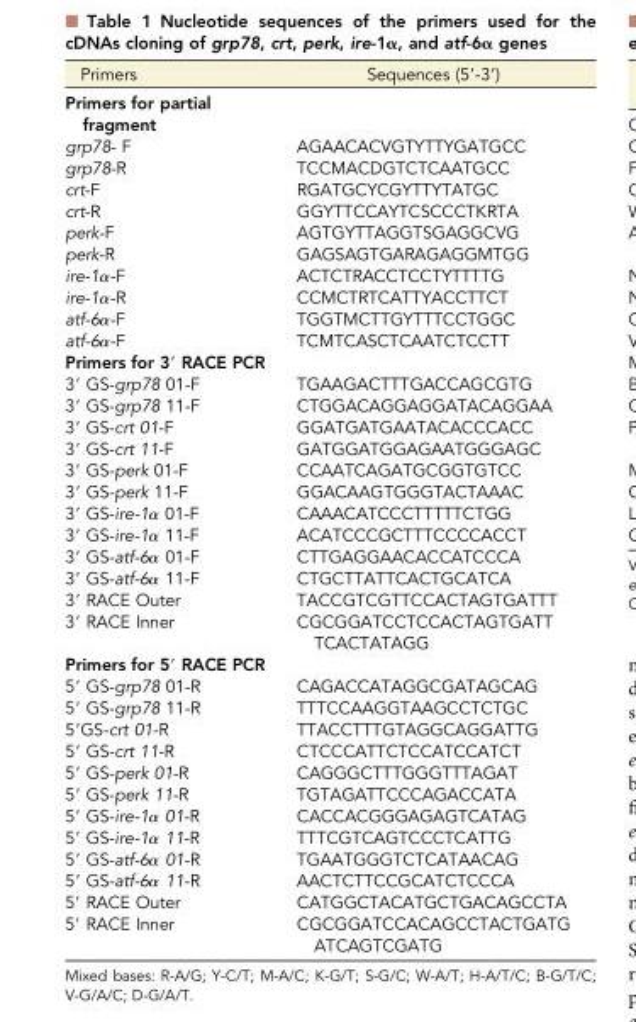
<table><thead><tr><td>Primers</td><td>Sequences (5′-3′)</td></tr></thead><tbody><tr><td colspan="2">Primers for partial fragment</td></tr><tr><td>grp78- F</td><td>AGAACACVGTYTTYGATGCC</td></tr><tr><td>grp78-R</td><td>TCCMACDGTCTCAATGCC</td></tr><tr><td>crt-F</td><td>RGATGCYCGYTTYTATGC</td></tr><tr><td>crt-R</td><td>GGYTTCCAYTCSCCCTKRTA</td></tr><tr><td>perk-F</td><td>AGTGYTTAGGTSGAGGCVG</td></tr><tr><td>perk-R</td><td>GAGSAGTGARAGAGGMTGG</td></tr><tr><td>ire-1α-F</td><td>ACTCTRACCTCCTYTTTTG</td></tr><tr><td>ire-1α-R</td><td>CCMCTRTCATTYACCTTCT</td></tr><tr><td>atf-6α-F</td><td>TGGTMCTTGYTTTCCTGGC</td></tr><tr><td>atf-6α-F</td><td>TCMTCASCTCAATCTCCTT</td></tr><tr><td colspan="2">Primers for 3′ RACE PCR</td></tr><tr><td>3′ GS-grp78 01-F</td><td>TGAAGACTTTGACCAGCGTG</td></tr><tr><td>3′ GS-grp78 11-F</td><td>CTGGACAGGAGGATACAGGAA</td></tr><tr><td>3′ GS-crt 01-F</td><td>GGATGATGAATACACCCACC</td></tr><tr><td>3′ GS-crt 11-F</td><td>GATGGATGGAGAATGGGAGC</td></tr><tr><td>3′ GS-perk 01-F</td><td>CCAATCAGATGCGGTGTCC</td></tr><tr><td>3′ GS-perk 11-F</td><td>GGACAAGTGGGTACTAAAC</td></tr><tr><td>3′ GS-ire-1α 01-F</td><td>CAAACATCCCTTTTTCTGG</td></tr><tr><td>3′ GS-ire-1α 11-F</td><td>ACATCCCGCTTTCCCCACCT</td></tr><tr><td>3′ GS-atf-6α 01-F</td><td>CTTGAGGAACACCATCCCA</td></tr><tr><td>3′ GS-atf-6α 11-F</td><td>CTGCTTATTCACTGCATCA</td></tr><tr><td>3′ RACE Outer</td><td>TACCGTCGTTCCACTAGTGATTT</td></tr><tr><td>3′ RACE Inner</td><td>CGCGGATCCTCCACTAGTGATT TCACTATAGG</td></tr><tr><td colspan="2">Primers for 5′ RACE PCR</td></tr><tr><td>5′ GS-grp78 01-R</td><td>CAGACCATAGGCGATAGCAG</td></tr><tr><td>5′ GS-grp78 11-R</td><td>TTTCCAAGGTAAGCCTCTGC</td></tr><tr><td>5′GS-crt 01-R</td><td>TTACCTTTGTAGGCAGGATTG</td></tr><tr><td>5′ GS-crt 11-R</td><td>CTCCCATTCTCCATCCATCT</td></tr><tr><td>5′ GS-perk 01-R</td><td>CAGGGCTTTGGGTTTAGAT</td></tr><tr><td>5′ GS-perk 11-R</td><td>TGTAGATTCCCAGACCATA</td></tr><tr><td>5′ GS-ire-1α 01-R</td><td>CACCACGGGAGAGTCATAG</td></tr><tr><td>5′ GS-ire-1α 11-R</td><td>TTTCGTCAGTCCCTCATTG</td></tr><tr><td>5′ GS-atf-6α 01-R</td><td>TGAATGGGTCTCATAACAG</td></tr><tr><td>5′ GS-atf-6α 11-R</td><td>AACTCTTCCGCATCTCCCA</td></tr><tr><td>5′ RACE Outer</td><td>CATGGCTACATGCTGACAGCCTA</td></tr><tr><td>5′ RACE Inner</td><td>CGCGGATCCACAGCCTACTGATG ATCAGTCGATG</td></tr></tbody></table>